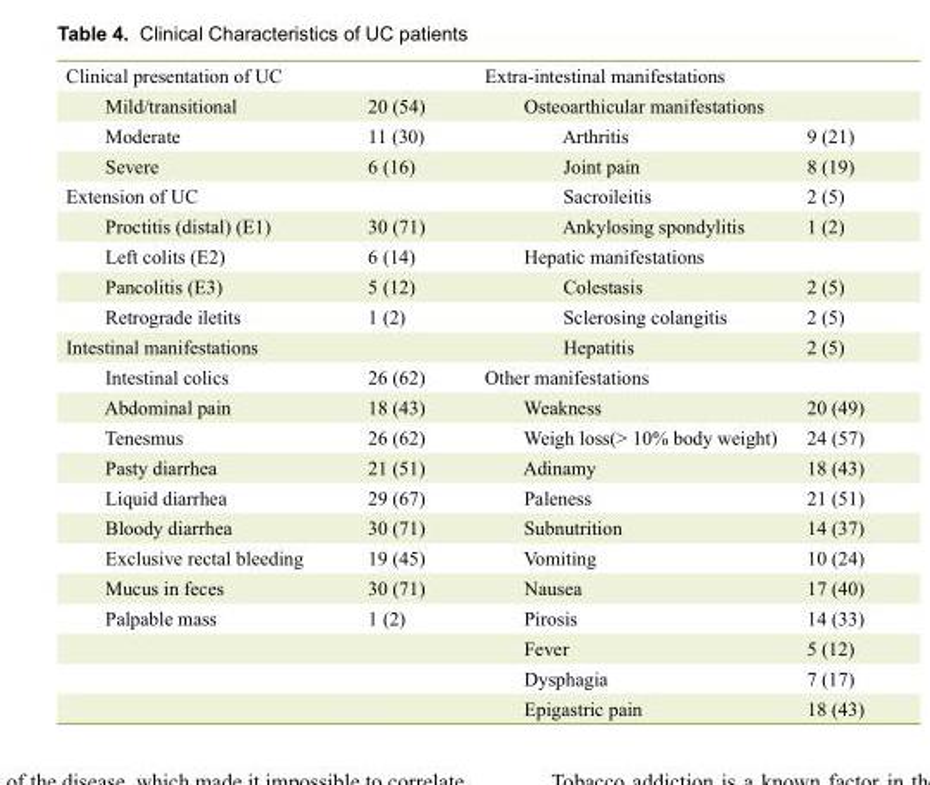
<table><tbody><tr><td>Clinical presentation of UC</td><td></td><td>Extra-intestinal manifestations</td><td></td></tr><tr><td>Mild/transitional</td><td>20 (54)</td><td>Osteoarthicular manifestations</td><td></td></tr><tr><td>Moderate</td><td>11 (30)</td><td>Arthritis</td><td>9 (21)</td></tr><tr><td>Severe</td><td>6 (16)</td><td>Joint pain</td><td>8 (19)</td></tr><tr><td>Extension of UC</td><td></td><td>Sacroileitis</td><td>2 (5)</td></tr><tr><td>Proctitis (distal) (E1)</td><td>30 (71)</td><td>Ankylosing spondylitis</td><td>1 (2)</td></tr><tr><td>Left colits (E2)</td><td>6 (14)</td><td>Hepatic manifestations</td><td></td></tr><tr><td>Pancolitis (E3)</td><td>5 (12)</td><td>Colestasis</td><td>2 (5)</td></tr><tr><td>Retrograde iletits</td><td>1 (2)</td><td>Sclerosing colangitis</td><td>2 (5)</td></tr><tr><td>Intestinal manifestations</td><td></td><td>Hepatitis</td><td>2 (5)</td></tr><tr><td>Intestinal colics</td><td>26 (62)</td><td>Other manifestations</td><td></td></tr><tr><td>Abdominal pain</td><td>18 (43)</td><td>Weakness</td><td>20 (49)</td></tr><tr><td>Tenesmus</td><td>26 (62)</td><td>Weigh loss(&gt; 10% body weight)</td><td>24 (57)</td></tr><tr><td>Pasty diarrhea</td><td>21 (51)</td><td>Adinamy</td><td>18 (43)</td></tr><tr><td>Liquid diarrhea</td><td>29 (67)</td><td>Paleness</td><td>21 (51)</td></tr><tr><td>Bloody diarrhea</td><td>30 (71)</td><td>Subnutrition</td><td>14 (37)</td></tr><tr><td>Exclusive rectal bleeding</td><td>19 (45)</td><td>Vomiting</td><td>10 (24)</td></tr><tr><td>Mucus in feces</td><td>30 (71)</td><td>Nausea</td><td>17 (40)</td></tr><tr><td rowspan="4">Palpable mass</td><td>1 (2)</td><td>Pirosis</td><td>14 (33)</td></tr><tr><td></td><td>Fever</td><td>5 (12)</td></tr><tr><td></td><td>Dysphagia</td><td>7 (17)</td></tr><tr><td></td><td>Epigastric pain</td><td>18 (43)</td></tr></tbody></table>